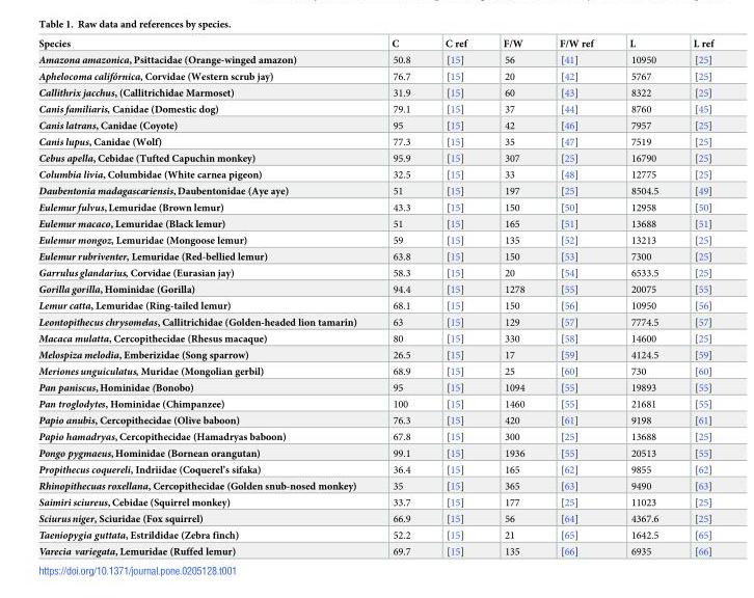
<table><thead><tr><td>Species</td><td>C</td><td>C ref</td><td>F/W</td><td>F/W ref</td><td>L</td><td>L ref</td></tr></thead><tbody><tr><td>Amazona amazonica, Psittacidae (Orange-winged amazon)</td><td>50.8</td><td>[15]</td><td>56</td><td>[41]</td><td>10950</td><td>[25]</td></tr><tr><td>Aphelocoma califórnica, Corvidae (Western scrub jay)</td><td>76.7</td><td>[15]</td><td>20</td><td>[42]</td><td>5767</td><td>[25]</td></tr><tr><td>Callithrix jacchus, (Callitrichidae Marmoset)</td><td>31.9</td><td>[15]</td><td>60</td><td>[43]</td><td>8322</td><td>[25]</td></tr><tr><td>Canis familiaris, Canidae (Domestic dog)</td><td>79.1</td><td>[15]</td><td>37</td><td>[44]</td><td>8760</td><td>[45]</td></tr><tr><td>Canis latrans, Canidae (Coyote)</td><td>95</td><td>[15]</td><td>42</td><td>[46]</td><td>7957</td><td>[25]</td></tr><tr><td>Canis lupus, Canidae (Wolf)</td><td>77.3</td><td>[15]</td><td>35</td><td>[47]</td><td>7519</td><td>[25]</td></tr><tr><td>Cebus apella, Cebidae (Tufted Capuchin monkey)</td><td>95.9</td><td>[15]</td><td>307</td><td>[25]</td><td>16790</td><td>[25]</td></tr><tr><td>Columbia livia, Columbidae (White carnea pigeon)</td><td>32.5</td><td>[15]</td><td>33</td><td>[48]</td><td>12775</td><td>[25]</td></tr><tr><td>Daubentonia madagascariensis,Daubentonidae (Aye aye)</td><td>51</td><td>[15]</td><td>197</td><td>[25]</td><td>8504.5</td><td>[49]</td></tr><tr><td>Eulemur fulvus, Lemuridae (Brown lemur)</td><td>43.3</td><td>[15]</td><td>150</td><td>[50]</td><td>12958</td><td>[50]</td></tr><tr><td>Eulemur macaco, Lemuridae (Black lemur)</td><td>51</td><td>[15]</td><td>165</td><td>[51]</td><td>13688</td><td>[51]</td></tr><tr><td>Eulemur mongoz, Lemuridae (Mongoose lemur)</td><td>59</td><td>[15]</td><td>135</td><td>[52]</td><td>13213</td><td>[25]</td></tr><tr><td>Eulemur rubriventer, Lemuridae (Red-bellied lemur)</td><td>63.8</td><td>[15]</td><td>150</td><td>[53]</td><td>7300</td><td>[25]</td></tr><tr><td>Garrulus glandarius, Corvidae (Eurasian jay)</td><td>58.3</td><td>[15]</td><td>20</td><td>[54]</td><td>6533.5</td><td>[25]</td></tr><tr><td>Gorilla gorilla, Hominidae (Gorilla)</td><td>94.4</td><td>[15]</td><td>1278</td><td>[55]</td><td>20075</td><td>[55]</td></tr><tr><td>Lemur catta, Lemuridae (Ring-tailed lemur)</td><td>68.1</td><td>[15]</td><td>150</td><td>[56]</td><td>10950</td><td>[56]</td></tr><tr><td>Leontopithecus chrysomelas, Callitrichidae (Golden-headed lion tamarin)</td><td>63</td><td>[15]</td><td>129</td><td>[57]</td><td>7774.5</td><td>[57]</td></tr><tr><td>Macaca mulatta, Cercopithecidae (Rhesus macaque)</td><td>80</td><td>[15]</td><td>330</td><td>[58]</td><td>14600</td><td>[25]</td></tr><tr><td>Melospiza melodia, Emberizidae (Song sparrow)</td><td>26.5</td><td>[15]</td><td>17</td><td>[59]</td><td>4124.5</td><td>[59]</td></tr><tr><td>Meriones unguiculatus, Muridae (Mongolian gerbil)</td><td>68.9</td><td>[15]</td><td>25</td><td>[60]</td><td>730</td><td>[60]</td></tr><tr><td>Pan paniscus, Hominidae (Bonobo)</td><td>95</td><td>[15]</td><td>1094</td><td>[55]</td><td>19893</td><td>[55]</td></tr><tr><td>Pan troglodytes, Hominidae (Chimpanzee)</td><td>100</td><td>[15]</td><td>1460</td><td>[55]</td><td>21681</td><td>[55]</td></tr><tr><td>Papio anubis, Cercopithecidae (Olive baboon)</td><td>76.3</td><td>[15]</td><td>420</td><td>[61]</td><td>9198</td><td>[61]</td></tr><tr><td>Papio hamadryas, Cercopithecidae (Hamadryas baboon)</td><td>67.8</td><td>[15]</td><td>300</td><td>[25]</td><td>13688</td><td>[25]</td></tr><tr><td>Pongo pygmaeus,Hominidae (Bornean orangutan)</td><td>99.1</td><td>[15]</td><td>1936</td><td>[55]</td><td>20513</td><td>[55]</td></tr><tr><td>Propithecus coquereli, Indriidae (Coquerel’s sifaka)</td><td>36.4</td><td>[15]</td><td>165</td><td>[62]</td><td>9855</td><td>[62]</td></tr><tr><td>Rhinopithecuas roxellana, Cercopithecidae (Golden snub-nosed monkey)</td><td>35</td><td>[15]</td><td>365</td><td>[63]</td><td>9490</td><td>[63]</td></tr><tr><td>Saimiri sciureus, Cebidae (Squirrel monkey)</td><td>33.7</td><td>[15]</td><td>177</td><td>[25]</td><td>11023</td><td>[25]</td></tr><tr><td>Sciurus niger, Sciuridae (Fox squirrel)</td><td>66.9</td><td>[15]</td><td>56</td><td>[64]</td><td>4367.6</td><td>[25]</td></tr><tr><td>Taeniopygia guttata, Estrildidae (Zebra finch)</td><td>52.2</td><td>[15]</td><td>21</td><td>[65]</td><td>1642.5</td><td>[65]</td></tr><tr><td>Varecia variegata, Lemuridae (Ruffed lemur)</td><td>69.7</td><td>[15]</td><td>135</td><td>[66]</td><td>6935</td><td>[66]</td></tr></tbody></table>